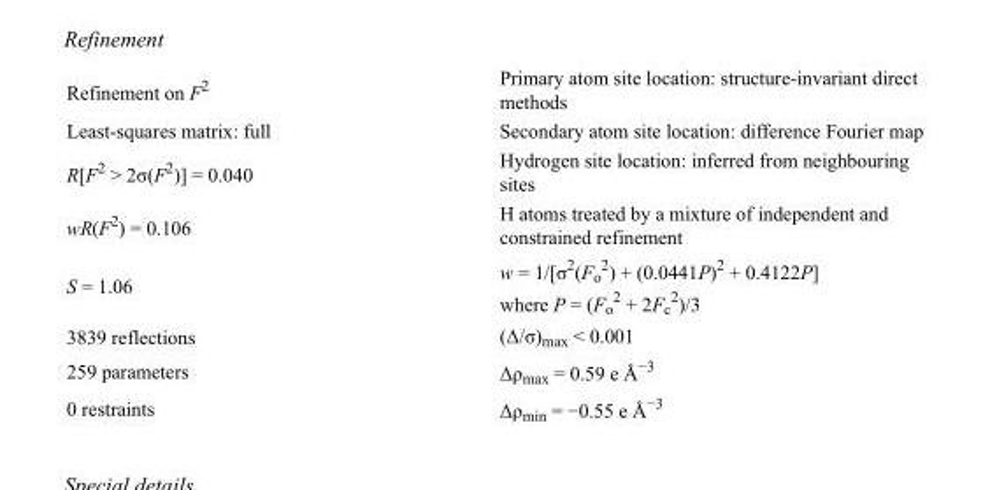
<table><tbody><tr><td>Refinement on F<sup>2</sup></td><td>Primary atom site location: structure-invariant direct methods</td></tr><tr><td>Least-squares matrix: full</td><td>Secondary atom site location: difference Fourier map</td></tr><tr><td>R[F<sup>2</sup> &gt; 2σ(F<sup>2</sup>)] = 0.040</td><td>Hydrogen site location: inferred from neighbouring sites</td></tr><tr><td>wR(F<sup>2</sup>) = 0.106</td><td>H atoms treated by a mixture of independent and constrained refinement</td></tr><tr><td>S = 1.06</td><td>w = 1/[σ<sup>2</sup>(F<sub>o</sub> <sup>2</sup>) + (0.0441P)<sup>2</sup> + 0.4122P] where P = (F<sub>o</sub> <sup>2</sup> + 2F<sub>c</sub> <sup>2</sup>)/3</td></tr><tr><td>3839 reflections</td><td>(Δ/σ)<sub>max</sub> &lt; 0.001</td></tr><tr><td>259 parameters</td><td>Δρ<sub>max</sub> = 0.59 e Å<sup>−3</sup></td></tr><tr><td>0 restraints</td><td>Δρ<sub>min</sub> = −0.55 e Å<sup>−3</sup></td></tr></tbody></table>